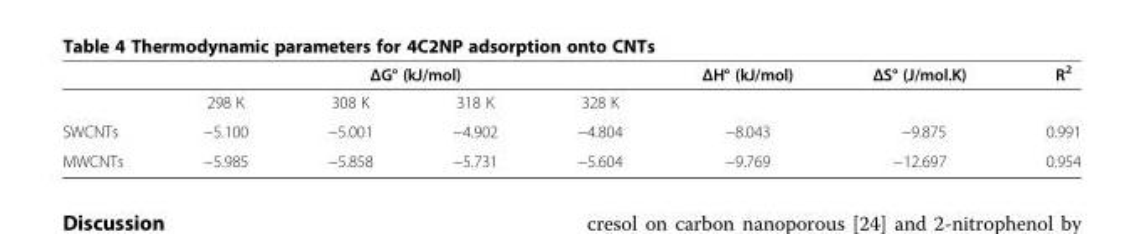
<table><thead><tr><td colspan="5">ΔG° (kJ/mol)</td><td rowspan="2">ΔH° (kJ/mol)</td><td rowspan="2">ΔS° (J/mol.K)</td><td rowspan="2">R<sup>2</sup></td></tr><tr><td></td><td>298 K</td><td>308 K</td><td>318 K</td><td>328 K</td></tr></thead><tbody><tr><td>SWCNTs</td><td>−5.100</td><td>−5.001</td><td>−4.902</td><td>−4.804</td><td>−8.043</td><td>−9.875</td><td>0.991</td></tr><tr><td>MWCNTs</td><td>−5.985</td><td>−5.858</td><td>−5.731</td><td>−5.604</td><td>−9.769</td><td>−12.697</td><td>0.954</td></tr></tbody></table>